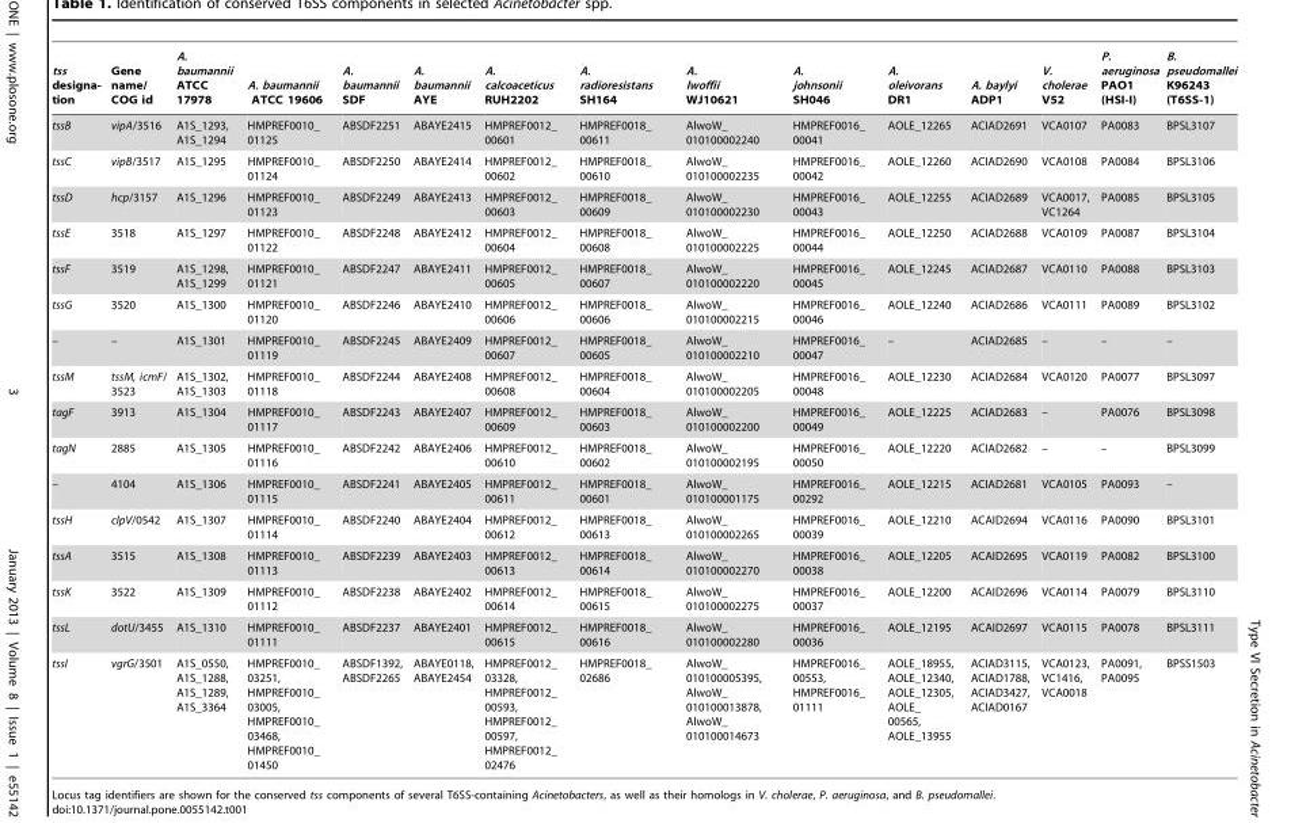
<table><thead><tr><td>tss designa- tion</td><td>Gene name/ COG id</td><td>A. baumannii ATCC 17978</td><td>A. baumannii ATCC 19606</td><td>A. baumannii SDF</td><td>A. baumannii AYE</td><td>A. calcoaceticus RUH2202</td><td>A. radioresistans SH164</td><td>A. lwoffii WJ10621</td><td>A. johnsonii SH046</td><td>A. oleivorans DR1</td><td>A. baylyi ADP1</td><td>V. cholerae V52</td><td>P. aeruginosa PAO1 (HSI-I)</td><td>B. pseudomallei K96243 (T6SS-1)</td></tr></thead><tbody><tr><td>tssB</td><td>vipA/3516</td><td>A1S_1293, A1S_1294</td><td>HMPREF0010_ 01125</td><td>ABSDF2251</td><td>ABAYE2415</td><td>HMPREF0012_ 00601</td><td>HMPREF0018_ 00611</td><td>AlwoW_ 010100002240</td><td>HMPREF0016_ 00041</td><td>AOLE_12265</td><td>ACIAD2691</td><td>VCA0107</td><td>PA0083</td><td>BPSL3107</td></tr><tr><td>tssC</td><td>vipB/3517</td><td>A1S_1295</td><td>HMPREF0010_ 01124</td><td>ABSDF2250</td><td>ABAYE2414</td><td>HMPREF0012_ 00602</td><td>HMPREF0018_ 00610</td><td>AlwoW_ 010100002235</td><td>HMPREF0016_ 00042</td><td>AOLE_12260</td><td>ACIAD2690</td><td>VCA0108</td><td>PA0084</td><td>BPSL3106</td></tr><tr><td>tssD</td><td>hcp/3157</td><td>A1S_1296</td><td>HMPREF0010_ 01123</td><td>ABSDF2249</td><td>ABAYE2413</td><td>HMPREF0012_ 00603</td><td>HMPREF0018_ 00609</td><td>AlwoW_ 010100002230</td><td>HMPREF0016_ 00043</td><td>AOLE_12255</td><td>ACIAD2689</td><td>VCA0017, VC1264</td><td>PA0085</td><td>BPSL3105</td></tr><tr><td>tssE</td><td>3518</td><td>A1S_1297</td><td>HMPREF0010_ 01122</td><td>ABSDF2248</td><td>ABAYE2412</td><td>HMPREF0012_ 00604</td><td>HMPREF0018_ 00608</td><td>AlwoW_ 010100002225</td><td>HMPREF0016_ 00044</td><td>AOLE_12250</td><td>ACIAD2688</td><td>VCA0109</td><td>PA0087</td><td>BPSL3104</td></tr><tr><td>tssF</td><td>3519</td><td>A1S_1298, A1S_1299</td><td>HMPREF0010_ 01121</td><td>ABSDF2247</td><td>ABAYE2411</td><td>HMPREF0012_ 00605</td><td>HMPREF0018_ 00607</td><td>AlwoW_ 010100002220</td><td>HMPREF0016_ 00045</td><td>AOLE_12245</td><td>ACIAD2687</td><td>VCA0110</td><td>PA0088</td><td>BPSL3103</td></tr><tr><td>tssG</td><td>3520</td><td>A1S_1300</td><td>HMPREF0010_ 01120</td><td>ABSDF2246</td><td>ABAYE2410</td><td>HMPREF0012_ 00606</td><td>HMPREF0018_ 00606</td><td>AlwoW_ 010100002215</td><td>HMPREF0016_ 00046</td><td>AOLE_12240</td><td>ACIAD2686</td><td>VCA0111</td><td>PA0089</td><td>BPSL3102</td></tr><tr><td>–</td><td>–</td><td>A1S_1301</td><td>HMPREF0010_ 01119</td><td>ABSDF2245</td><td>ABAYE2409</td><td>HMPREF0012_ 00607</td><td>HMPREF0018_ 00605</td><td>AlwoW_ 010100002210</td><td>HMPREF0016_ 00047</td><td>–</td><td>ACIAD2685</td><td>–</td><td>–</td><td>–</td></tr><tr><td>tssM</td><td>tssM, icmF/ 3523</td><td>A1S_1302, A1S_1303</td><td>HMPREF0010_ 01118</td><td>ABSDF2244</td><td>ABAYE2408</td><td>HMPREF0012_ 00608</td><td>HMPREF0018_ 00604</td><td>AlwoW_ 010100002205</td><td>HMPREF0016_ 00048</td><td>AOLE_12230</td><td>ACIAD2684</td><td>VCA0120</td><td>PA0077</td><td>BPSL3097</td></tr><tr><td>tagF</td><td>3913</td><td>A1S_1304</td><td>HMPREF0010_ 01117</td><td>ABSDF2243</td><td>ABAYE2407</td><td>HMPREF0012_ 00609</td><td>HMPREF0018_ 00603</td><td>AlwoW_ 010100002200</td><td>HMPREF0016_ 00049</td><td>AOLE_12225</td><td>ACIAD2683</td><td>–</td><td>PA0076</td><td>BPSL3098</td></tr><tr><td>tagN</td><td>2885</td><td>A1S_1305</td><td>HMPREF0010_ 01116</td><td>ABSDF2242</td><td>ABAYE2406</td><td>HMPREF0012_ 00610</td><td>HMPREF0018_ 00602</td><td>AlwoW_ 010100002195</td><td>HMPREF0016_ 00050</td><td>AOLE_12220</td><td>ACIAD2682</td><td>–</td><td>–</td><td>BPSL3099</td></tr><tr><td>–</td><td>4104</td><td>A1S_1306</td><td>HMPREF0010_ 01115</td><td>ABSDF2241</td><td>ABAYE2405</td><td>HMPREF0012_ 00611</td><td>HMPREF0018_ 00601</td><td>AlwoW_ 010100001175</td><td>HMPREF0016_ 00292</td><td>AOLE_12215</td><td>ACIAD2681</td><td>VCA0105</td><td>PA0093</td><td>–</td></tr><tr><td>tssH</td><td>clpV/0542</td><td>A1S_1307</td><td>HMPREF0010_ 01114</td><td>ABSDF2240</td><td>ABAYE2404</td><td>HMPREF0012_ 00612</td><td>HMPREF0018_ 00613</td><td>AlwoW_ 010100002265</td><td>HMPREF0016_ 00039</td><td>AOLE_12210</td><td>ACAID2694</td><td>VCA0116</td><td>PA0090</td><td>BPSL3101</td></tr><tr><td>tssA</td><td>3515</td><td>A1S_1308</td><td>HMPREF0010_ 01113</td><td>ABSDF2239</td><td>ABAYE2403</td><td>HMPREF0012_ 00613</td><td>HMPREF0018_ 00614</td><td>AlwoW_ 010100002270</td><td>HMPREF0016_ 00038</td><td>AOLE_12205</td><td>ACAID2695</td><td>VCA0119</td><td>PA0082</td><td>BPSL3100</td></tr><tr><td>tssK</td><td>3522</td><td>A1S_1309</td><td>HMPREF0010_ 01112</td><td>ABSDF2238</td><td>ABAYE2402</td><td>HMPREF0012_ 00614</td><td>HMPREF0018_ 00615</td><td>AlwoW_ 010100002275</td><td>HMPREF0016_ 00037</td><td>AOLE_12200</td><td>ACAID2696</td><td>VCA0114</td><td>PA0079</td><td>BPSL3110</td></tr><tr><td>tssL</td><td>dotU/3455</td><td>A1S_1310</td><td>HMPREF0010_ 01111</td><td>ABSDF2237</td><td>ABAYE2401</td><td>HMPREF0012_ 00615</td><td>HMPREF0018_ 00616</td><td>AlwoW_ 010100002280</td><td>HMPREF0016_ 00036</td><td>AOLE_12195</td><td>ACAID2697</td><td>VCA0115</td><td>PA0078</td><td>BPSL3111</td></tr><tr><td>tssI</td><td>vgrG/3501</td><td>A1S_0550, A1S_1288, A1S_1289, A1S_3364</td><td>HMPREF0010_ 03251, HMPREF0010_ 03005, HMPREF0010_ 03468, HMPREF0010_ 01450</td><td>ABSDF1392, ABSDF2265</td><td>ABAYE0118, ABAYE2454</td><td>HMPREF0012_ 03328, HMPREF0012_ 00593, HMPREF0012_ 00597, HMPREF0012_ 02476</td><td>HMPREF0018_ 02686</td><td>AlwoW_ 010100005395, AlwoW_ 010100013878, AlwoW_ 010100014673</td><td>HMPREF0016_ 00553, HMPREF0016_ 01111</td><td>AOLE_18955, AOLE_12340, AOLE_12305, AOLE_ 00565, AOLE_13955</td><td>ACIAD3115, ACIAD1788, ACIAD3427, ACIAD0167</td><td>VCA0123, VC1416, VCA0018</td><td>PA0091, PA0095</td><td>BPSS1503</td></tr></tbody></table>